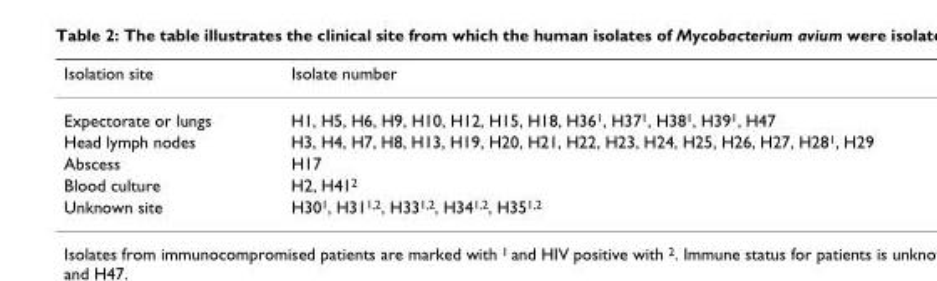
<table><thead><tr><td>Isolation site</td><td>Isolate number</td></tr></thead><tbody><tr><td>Expectorate or lungs</td><td>H1, H5, H6, H9, H10, H12, H15, H18, H361, H371, H381, H391, H47</td></tr><tr><td>Head lymph nodes</td><td>H3, H4, H7, H8, H13, H19, H20, H21, H22, H23, H24, H25, H26, H27, H281, H29</td></tr><tr><td>Abscess</td><td>H17</td></tr><tr><td>Blood culture</td><td>H2, H412</td></tr><tr><td>Unknown site</td><td>H301, H311,2, H331,2, H341,2, H351,2</td></tr></tbody></table>